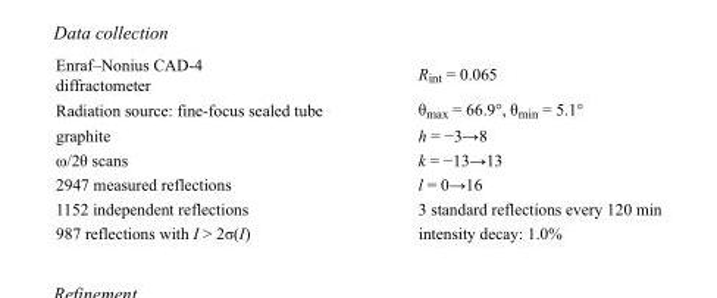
<table><tbody><tr><td>Enraf–Nonius CAD-4 diffractometer</td><td>R<sub>int</sub> = 0.065</td></tr><tr><td>Radiation source: fine-focus sealed tube</td><td>θ<sub>max</sub> = 66.9°, θ<sub>min</sub> = 5.1°</td></tr><tr><td>graphite</td><td>h = −3→8</td></tr><tr><td>ω/2θ scans</td><td>k = −13→13</td></tr><tr><td>2947 measured reflections</td><td>l = 0→16</td></tr><tr><td>1152 independent reflections</td><td>3 standard reflections every 120 min</td></tr><tr><td>987 reflections with I &gt; 2σ(I)</td><td>intensity decay: 1.0%</td></tr></tbody></table>